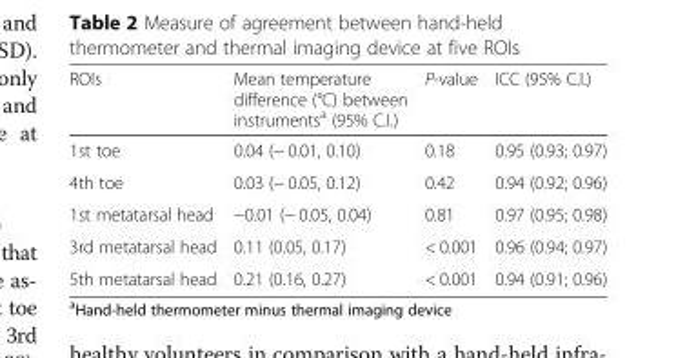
<table><thead><tr><td>ROIs</td><td>Mean temperature difference (°C) between instruments<sup>a</sup> (95% C.I.)</td><td>P-value</td><td>ICC (95% C.I.)</td></tr></thead><tbody><tr><td>1st toe</td><td>0.04 (− 0.01, 0.10)</td><td>0.18</td><td>0.95 (0.93; 0.97)</td></tr><tr><td>4th toe</td><td>0.03 (− 0.05, 0.12)</td><td>0.42</td><td>0.94 (0.92; 0.96)</td></tr><tr><td>1st metatarsal head</td><td>−0.01 (− 0.05, 0.04)</td><td>0.81</td><td>0.97 (0.95; 0.98)</td></tr><tr><td>3rd metatarsal head</td><td>0.11 (0.05, 0.17)</td><td>&lt; 0.001</td><td>0.96 (0.94; 0.97)</td></tr><tr><td>5th metatarsal head</td><td>0.21 (0.16, 0.27)</td><td>&lt; 0.001</td><td>0.94 (0.91; 0.96)</td></tr></tbody></table>